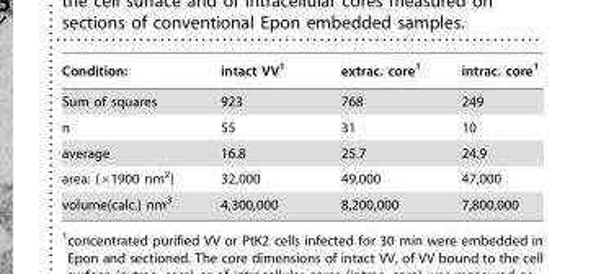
<table><thead><tr><td>Condition:</td><td>intact VV<sup>1</sup></td><td>extrac. core<sup>1</sup></td><td>intrac. core<sup>1</sup></td></tr></thead><tbody><tr><td>Sum of squares</td><td>923</td><td>768</td><td>249</td></tr><tr><td>n</td><td>55</td><td>31</td><td>10</td></tr><tr><td>average</td><td>16.8</td><td>25.7</td><td>24.9</td></tr><tr><td>area: (×1900 nm<sup>2</sup>)</td><td>32,000</td><td>49,000</td><td>47,000</td></tr><tr><td>volume(calc.) nm<sup>3</sup></td><td>4,300,000</td><td>8,200,000</td><td>7,800,000</td></tr></tbody></table>